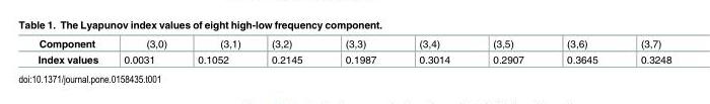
<table><tbody><tr><td>Component</td><td>(3,0)</td><td>(3,1)</td><td>(3,2)</td><td>(3,3)</td><td>(3,4)</td><td>(3,5)</td><td>(3,6)</td><td>(3,7)</td></tr><tr><td>Index values</td><td>0.0031</td><td>0.1052</td><td>0.2145</td><td>0.1987</td><td>0.3014</td><td>0.2907</td><td>0.3645</td><td>0.3248</td></tr></tbody></table>